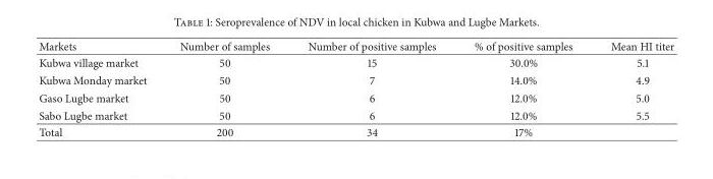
<table><thead><tr><td>Markets</td><td>Number of samples</td><td>Number of positive samples</td><td>% of positive samples</td><td>Mean HI titer</td></tr></thead><tbody><tr><td>Kubwa village market</td><td>50</td><td>15</td><td>30.0%</td><td>5.1</td></tr><tr><td>Kubwa Monday market</td><td>50</td><td>7</td><td>14.0%</td><td>4.9</td></tr><tr><td>Gaso Lugbe market</td><td>50</td><td>6</td><td>12.0%</td><td>5.0</td></tr><tr><td>Sabo Lugbe market</td><td>50</td><td>6</td><td>12.0%</td><td>5.5</td></tr><tr><td>Total</td><td>200</td><td>34</td><td>17%</td><td></td></tr></tbody></table>